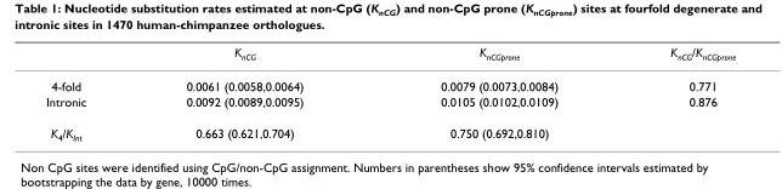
<table><thead><tr><td></td><td>K<sub>nCG</sub></td><td>K<sub>nCGprone</sub></td><td>K<sub>nCG</sub>/K<sub>nCGprone</sub></td></tr></thead><tbody><tr><td>4-fold</td><td>0.0061 (0.0058,0.0064)</td><td>0.0079 (0.0073,0.0084)</td><td>0.771</td></tr><tr><td>Intronic</td><td>0.0092 (0.0089,0.0095)</td><td>0.0105 (0.0102,0.0109)</td><td>0.876</td></tr><tr><td>K<sub>4</sub>/K<sub>Int</sub></td><td>0.663 (0.621,0.704)</td><td>0.750 (0.692,0.810)</td><td></td></tr></tbody></table>